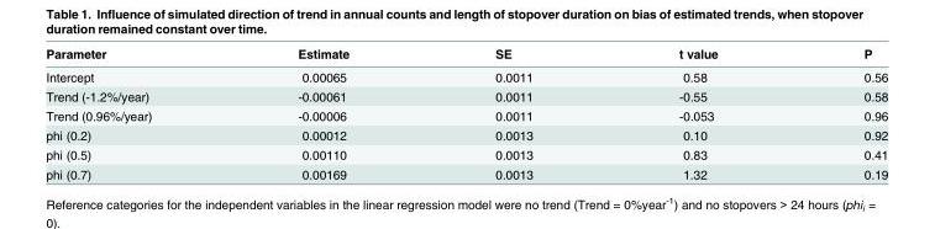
<table><thead><tr><td>Parameter</td><td>Estimate</td><td>SE</td><td>t value</td><td>P</td></tr></thead><tbody><tr><td>Intercept</td><td>0.00065</td><td>0.0011</td><td>0.58</td><td>0.56</td></tr><tr><td>Trend (-1.2%/year)</td><td>-0.00061</td><td>0.0011</td><td>-0.55</td><td>0.58</td></tr><tr><td>Trend (0.96%/year)</td><td>-0.00006</td><td>0.0011</td><td>-0.053</td><td>0.96</td></tr><tr><td>phi (0.2)</td><td>0.00012</td><td>0.0013</td><td>0.10</td><td>0.92</td></tr><tr><td>phi (0.5)</td><td>0.00110</td><td>0.0013</td><td>0.83</td><td>0.41</td></tr><tr><td>phi (0.7)</td><td>0.00169</td><td>0.0013</td><td>1.32</td><td>0.19</td></tr></tbody></table>